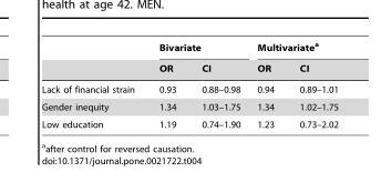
<table><thead><tr><td rowspan="2"></td><td colspan="2">Bivariate</td><td colspan="2">Multivariate<sup>a</sup></td></tr><tr><td>OR</td><td>CI</td><td>OR</td><td>CI</td></tr></thead><tbody><tr><td>Lack of financial strain</td><td>0.93</td><td>0.88–0.98</td><td>0.94</td><td>0.89–1.01</td></tr><tr><td>Gender inequity</td><td>1.34</td><td>1.03–1.75</td><td>1.34</td><td>1.02–1.75</td></tr><tr><td>Low education</td><td>1.19</td><td>0.74–1.90</td><td>1.23</td><td>0.73–2.02</td></tr></tbody></table>